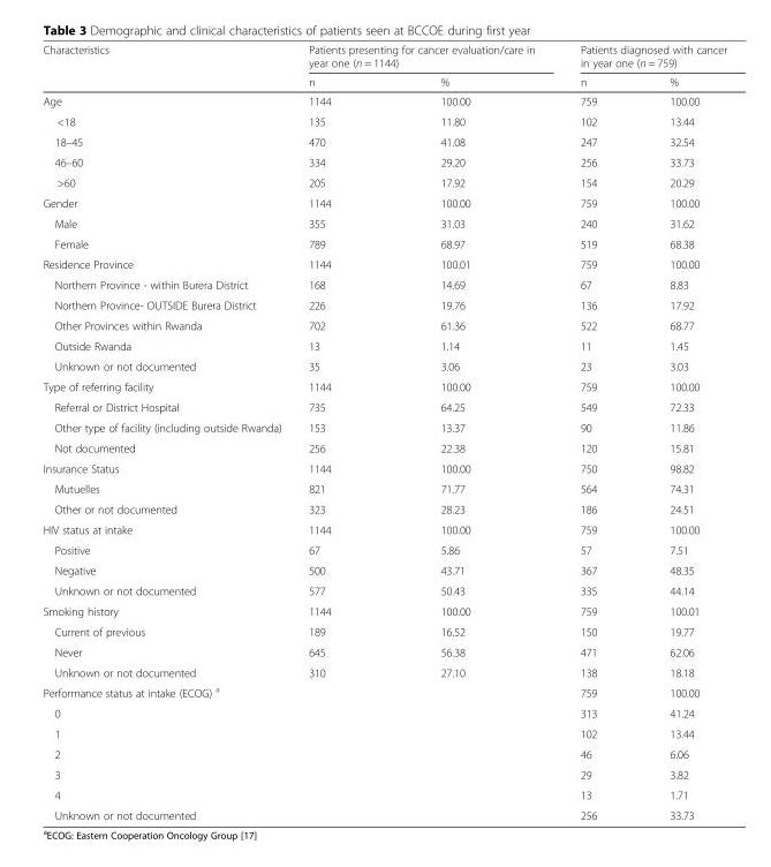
<table><thead><tr><td rowspan="2">Characteristics</td><td colspan="2">Patients presenting for cancer evaluation/care in year one (n = 1144)</td><td colspan="2">Patients diagnosed with cancer in year one (n = 759)</td></tr><tr><td>n</td><td>%</td><td>n</td><td>%</td></tr></thead><tbody><tr><td>Age</td><td>1144</td><td>100.00</td><td>759</td><td>100.00</td></tr><tr><td>&lt;18</td><td>135</td><td>11.80</td><td>102</td><td>13.44</td></tr><tr><td>18–45</td><td>470</td><td>41.08</td><td>247</td><td>32.54</td></tr><tr><td>46–60</td><td>334</td><td>29.20</td><td>256</td><td>33.73</td></tr><tr><td>&gt;60</td><td>205</td><td>17.92</td><td>154</td><td>20.29</td></tr><tr><td>Gender</td><td>1144</td><td>100.00</td><td>759</td><td>100.00</td></tr><tr><td>Male</td><td>355</td><td>31.03</td><td>240</td><td>31.62</td></tr><tr><td>Female</td><td>789</td><td>68.97</td><td>519</td><td>68.38</td></tr><tr><td>Residence Province</td><td>1144</td><td>100.01</td><td>759</td><td>100.00</td></tr><tr><td>Northern Province - within Burera District</td><td>168</td><td>14.69</td><td>67</td><td>8.83</td></tr><tr><td>Northern Province- OUTSIDE Burera District</td><td>226</td><td>19.76</td><td>136</td><td>17.92</td></tr><tr><td>Other Provinces within Rwanda</td><td>702</td><td>61.36</td><td>522</td><td>68.77</td></tr><tr><td>Outside Rwanda</td><td>13</td><td>1.14</td><td>11</td><td>1.45</td></tr><tr><td>Unknown or not documented</td><td>35</td><td>3.06</td><td>23</td><td>3.03</td></tr><tr><td>Type of referring facility</td><td>1144</td><td>100.00</td><td>759</td><td>100.00</td></tr><tr><td>Referral or District Hospital</td><td>735</td><td>64.25</td><td>549</td><td>72.33</td></tr><tr><td>Other type of facility (including outside Rwanda)</td><td>153</td><td>13.37</td><td>90</td><td>11.86</td></tr><tr><td>Not documented</td><td>256</td><td>22.38</td><td>120</td><td>15.81</td></tr><tr><td>Insurance Status</td><td>1144</td><td>100.00</td><td>750</td><td>98.82</td></tr><tr><td>Mutuelles</td><td>821</td><td>71.77</td><td>564</td><td>74.31</td></tr><tr><td>Other or not documented</td><td>323</td><td>28.23</td><td>186</td><td>24.51</td></tr><tr><td>HIV status at intake</td><td>1144</td><td>100.00</td><td>759</td><td>100.00</td></tr><tr><td>Positive</td><td>67</td><td>5.86</td><td>57</td><td>7.51</td></tr><tr><td>Negative</td><td>500</td><td>43.71</td><td>367</td><td>48.35</td></tr><tr><td>Unknown or not documented</td><td>577</td><td>50.43</td><td>335</td><td>44.14</td></tr><tr><td>Smoking history</td><td>1144</td><td>100.00</td><td>759</td><td>100.01</td></tr><tr><td>Current of previous</td><td>189</td><td>16.52</td><td>150</td><td>19.77</td></tr><tr><td>Never</td><td>645</td><td>56.38</td><td>471</td><td>62.06</td></tr><tr><td>Unknown or not documented</td><td>310</td><td>27.10</td><td>138</td><td>18.18</td></tr><tr><td>Performance status at intake (ECOG) <sup>a</sup></td><td></td><td></td><td>759</td><td>100.00</td></tr><tr><td>0</td><td></td><td></td><td>313</td><td>41.24</td></tr><tr><td>1</td><td></td><td></td><td>102</td><td>13.44</td></tr><tr><td>2</td><td></td><td></td><td>46</td><td>6.06</td></tr><tr><td>3</td><td></td><td></td><td>29</td><td>3.82</td></tr><tr><td>4</td><td></td><td></td><td>13</td><td>1.71</td></tr><tr><td>Unknown or not documented</td><td></td><td></td><td>256</td><td>33.73</td></tr></tbody></table>